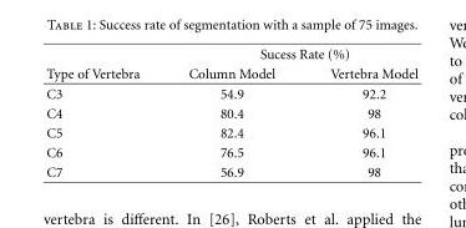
<table><thead><tr><td rowspan="2">Type of Vertebra</td><td colspan="2">Sucess Rate (%)</td></tr><tr><td>Column Model</td><td>Vertebra Model</td></tr></thead><tbody><tr><td>C3</td><td>54.9</td><td>92.2</td></tr><tr><td>C4</td><td>80.4</td><td>98</td></tr><tr><td>C5</td><td>82.4</td><td>96.1</td></tr><tr><td>C6</td><td>76.5</td><td>96.1</td></tr><tr><td>C7</td><td>56.9</td><td>98</td></tr></tbody></table>